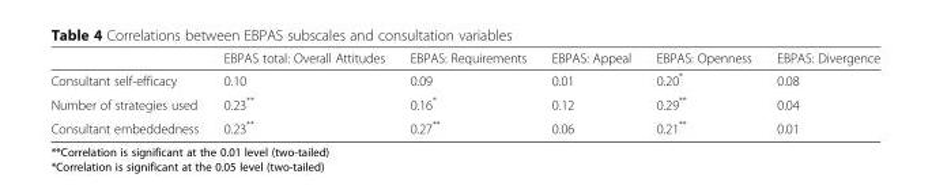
<table><thead><tr><td></td><td>EBPAS total: Overall Attitudes</td><td>EBPAS: Requirements</td><td>EBPAS: Appeal</td><td>EBPAS: Openness</td><td>EBPAS: Divergence</td></tr></thead><tbody><tr><td>Consultant self-efficacy</td><td>0.10</td><td>0.09</td><td>0.01</td><td>0.20*</td><td>0.08</td></tr><tr><td>Number of strategies used</td><td>0.23**</td><td>0.16*</td><td>0.12</td><td>0.29**</td><td>0.04</td></tr><tr><td>Consultant embeddedness</td><td>0.23**</td><td>0.27**</td><td>0.06</td><td>0.21**</td><td>0.01</td></tr></tbody></table>